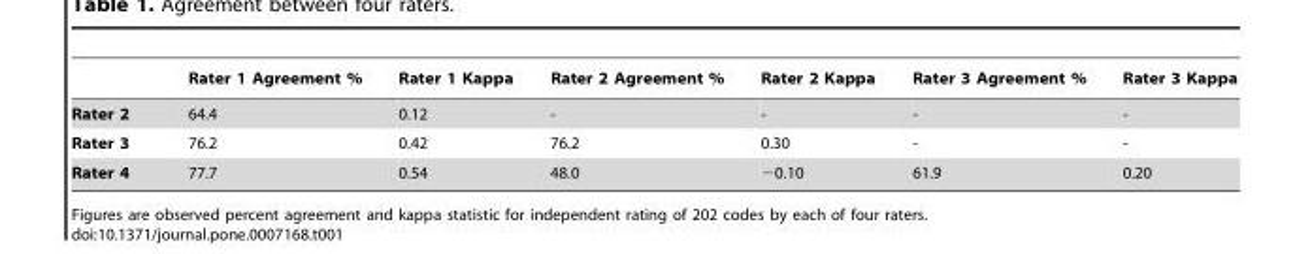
<table><thead><tr><td></td><td>Rater 1 Agreement %</td><td>Rater 1 Kappa</td><td>Rater 2 Agreement %</td><td>Rater 2 Kappa</td><td>Rater 3 Agreement %</td><td>Rater 3 Kappa</td></tr></thead><tbody><tr><td>Rater 2</td><td>64.4</td><td>0.12</td><td>-</td><td>-</td><td>-</td><td>-</td></tr><tr><td>Rater 3</td><td>76.2</td><td>0.42</td><td>76.2</td><td>0.30</td><td>-</td><td>-</td></tr><tr><td>Rater 4</td><td>77.7</td><td>0.54</td><td>48.0</td><td>−0.10</td><td>61.9</td><td>0.20</td></tr></tbody></table>